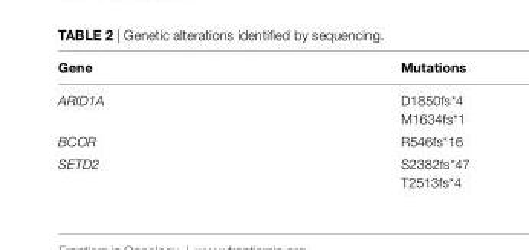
<table><thead><tr><td>Gene</td><td>Mutations</td></tr></thead><tbody><tr><td>ARID1A</td><td>D1850fs*4 M1634fs*1</td></tr><tr><td>BCOR</td><td>R546fs*16</td></tr><tr><td>SETD2</td><td>S2382fs*47 T2513fs*4</td></tr></tbody></table>